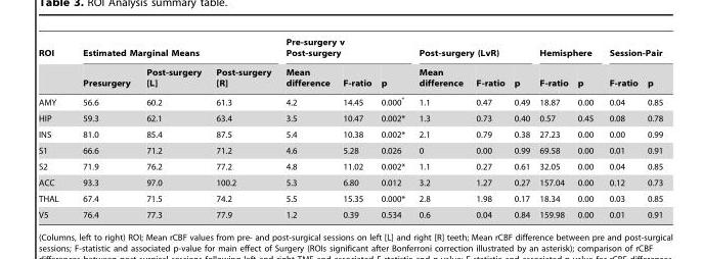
<table><thead><tr><td rowspan="2">ROI</td><td colspan="3">Estimated Marginal Means</td><td colspan="3">Pre-surgery v Post-surgery</td><td colspan="3">Post-surgery (LvR)</td><td colspan="2">Hemisphere</td><td colspan="2">Session-Pair</td></tr><tr><td>Presurgery</td><td>Post-surgery [L]</td><td>Post-surgery [R]</td><td>Mean difference</td><td>F-ratio</td><td>p</td><td>Mean difference</td><td>F-ratio</td><td>p</td><td>F-ratio</td><td>p</td><td>F-ratio</td><td>p</td></tr></thead><tbody><tr><td>AMY</td><td>56.6</td><td>60.2</td><td>61.3</td><td>4.2</td><td>14.45</td><td>0.000*</td><td>1.1</td><td>0.47</td><td>0.49</td><td>18.87</td><td>0.00</td><td>0.04</td><td>0.85</td></tr><tr><td>HIP</td><td>59.3</td><td>62.1</td><td>63.4</td><td>3.5</td><td>10.47</td><td>0.002*</td><td>1.3</td><td>0.73</td><td>0.40</td><td>0.57</td><td>0.45</td><td>0.08</td><td>0.78</td></tr><tr><td>INS</td><td>81.0</td><td>85.4</td><td>87.5</td><td>5.4</td><td>10.38</td><td>0.002*</td><td>2.1</td><td>0.79</td><td>0.38</td><td>27.23</td><td>0.00</td><td>0.00</td><td>0.99</td></tr><tr><td>S1</td><td>66.6</td><td>71.2</td><td>71.2</td><td>4.6</td><td>5.28</td><td>0.026</td><td>0</td><td>0.00</td><td>0.99</td><td>69.58</td><td>0.00</td><td>0.01</td><td>0.91</td></tr><tr><td>S2</td><td>71.9</td><td>76.2</td><td>77.2</td><td>4.8</td><td>11.02</td><td>0.002*</td><td>1.1</td><td>0.27</td><td>0.61</td><td>32.05</td><td>0.00</td><td>0.04</td><td>0.85</td></tr><tr><td>ACC</td><td>93.3</td><td>97.0</td><td>100.2</td><td>5.3</td><td>6.80</td><td>0.012</td><td>3.2</td><td>1.27</td><td>0.27</td><td>157.04</td><td>0.00</td><td>0.12</td><td>0.73</td></tr><tr><td>THAL</td><td>67.4</td><td>71.5</td><td>74.2</td><td>5.5</td><td>15.35</td><td>0.000*</td><td>2.8</td><td>1.98</td><td>0.17</td><td>18.34</td><td>0.00</td><td>0.03</td><td>0.85</td></tr><tr><td>V5</td><td>76.4</td><td>77.3</td><td>77.9</td><td>1.2</td><td>0.39</td><td>0.534</td><td>0.6</td><td>0.04</td><td>0.84</td><td>159.98</td><td>0.00</td><td>0.01</td><td>0.91</td></tr></tbody></table>